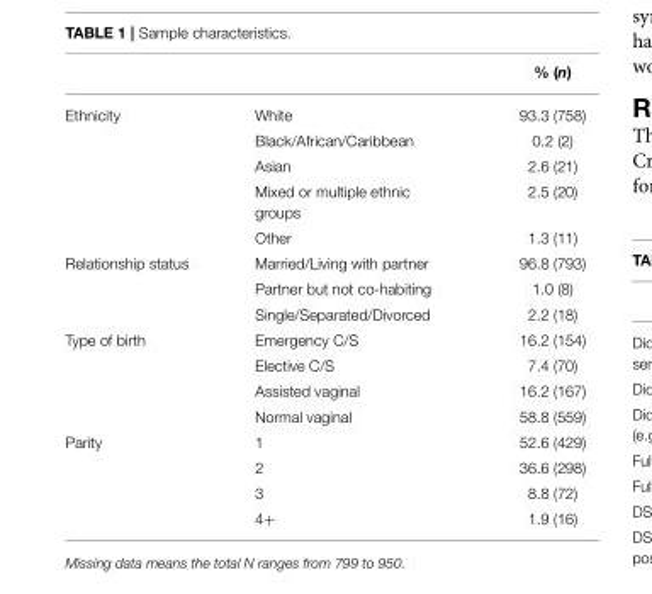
<table><thead><tr><td></td><td></td><td>% (n)</td></tr></thead><tbody><tr><td rowspan="5">Ethnicity</td><td>White</td><td>93.3 (758)</td></tr><tr><td>Black/African/Caribbean</td><td>0.2 (2)</td></tr><tr><td>Asian</td><td>2.6 (21)</td></tr><tr><td>Mixed or multiple ethnic groups</td><td>2.5 (20)</td></tr><tr><td>Other</td><td>1.3 (11)</td></tr><tr><td rowspan="3">Relationship status</td><td>Married/Living with partner</td><td>96.8 (793)</td></tr><tr><td>Partner but not co-habiting</td><td>1.0 (8)</td></tr><tr><td>Single/Separated/Divorced</td><td>2.2 (18)</td></tr><tr><td rowspan="4">Type of birth</td><td>Emergency C/S</td><td>16.2 (154)</td></tr><tr><td>Elective C/S</td><td>7.4 (70)</td></tr><tr><td>Assisted vaginal</td><td>16.2 (167)</td></tr><tr><td>Normal vaginal</td><td>58.8 (559)</td></tr><tr><td rowspan="4">Parity</td><td>1</td><td>52.6 (429)</td></tr><tr><td>2</td><td>36.6 (298)</td></tr><tr><td>3</td><td>8.8 (72)</td></tr><tr><td>4+</td><td>1.9 (16)</td></tr></tbody></table>